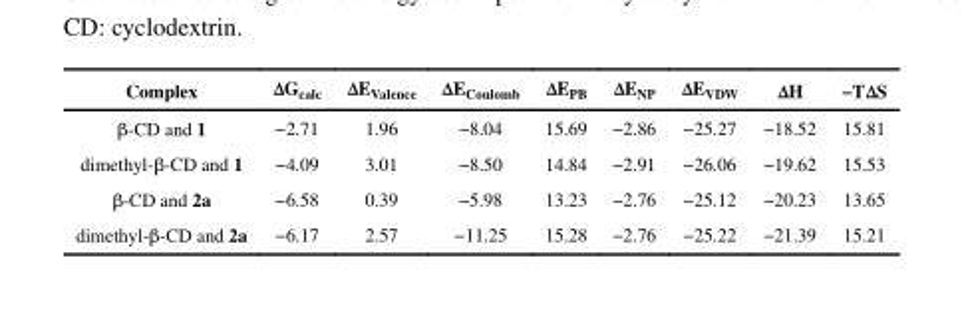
<table><thead><tr><td>Complex</td><td>ΔG<sub>calc</sub></td><td>ΔE<sub>Valence</sub></td><td>ΔE<sub>Coulomb</sub></td><td>ΔE<sub>PB</sub></td><td>ΔE<sub>NP</sub></td><td>ΔE<sub>VDW</sub></td><td>ΔH</td><td>−TΔS</td></tr></thead><tbody><tr><td>β-CD and 1</td><td>−2.71</td><td>1.96</td><td>−8.04</td><td>15.69</td><td>−2.86</td><td>−25.27</td><td>−18.52</td><td>15.81</td></tr><tr><td>dimethyl-β-CD and 1</td><td>−4.09</td><td>3.01</td><td>−8.50</td><td>14.84</td><td>−2.91</td><td>−26.06</td><td>−19.62</td><td>15.53</td></tr><tr><td>β-CD and 2a</td><td>−6.58</td><td>0.39</td><td>−5.98</td><td>13.23</td><td>−2.76</td><td>−25.12</td><td>−20.23</td><td>13.65</td></tr><tr><td>dimethyl-β-CD and 2a</td><td>−6.17</td><td>2.57</td><td>−11.25</td><td>15.28</td><td>−2.76</td><td>−25.22</td><td>−21.39</td><td>15.21</td></tr></tbody></table>